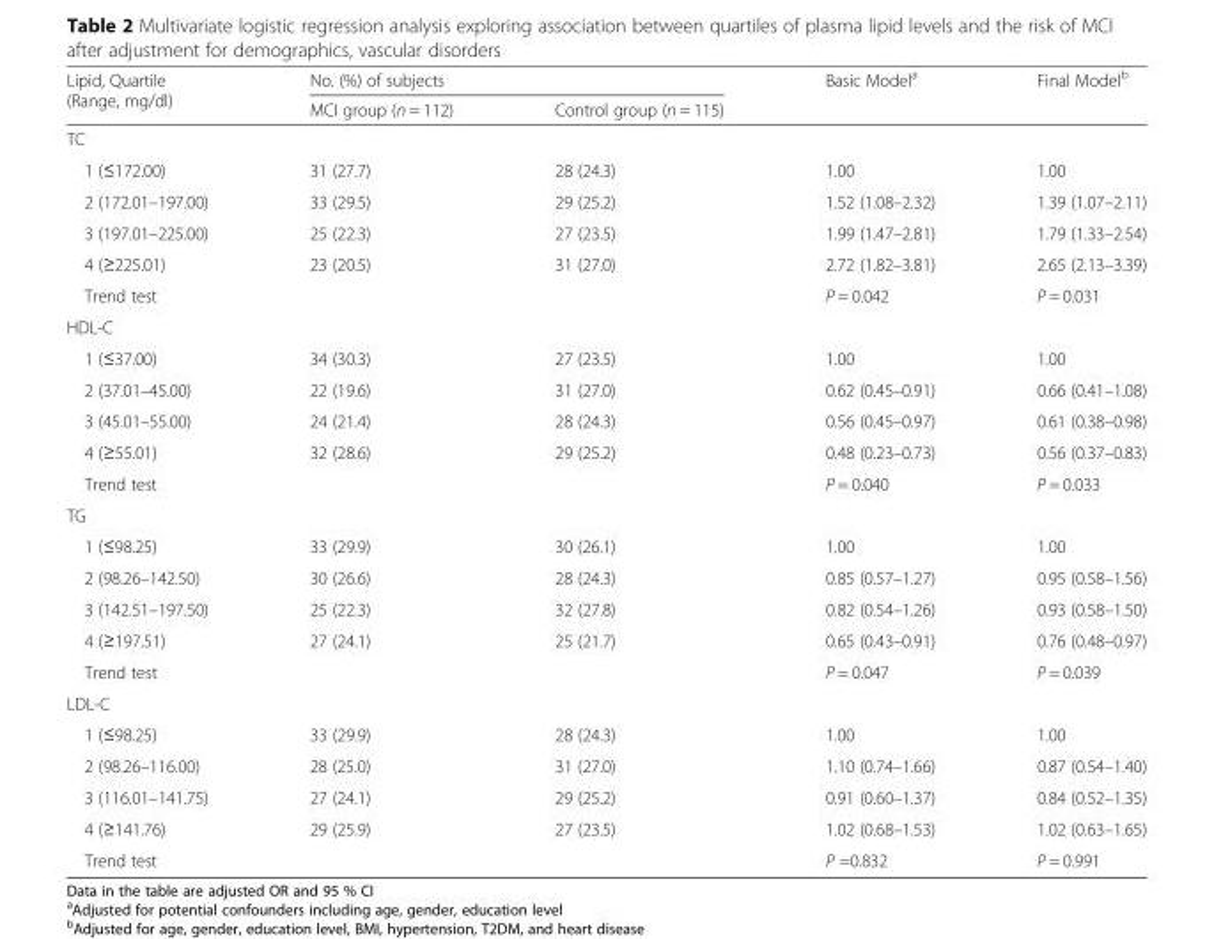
<table><thead><tr><td rowspan="2">Lipid, Quartile (Range, mg/dl)</td><td colspan="2">No. (%) of subjects</td><td rowspan="2">Basic Model<sup>a</sup></td><td rowspan="2">Final Model<sup>b</sup></td></tr><tr><td>MCI group (n = 112)</td><td>Control group (n = 115)</td></tr></thead><tbody><tr><td colspan="5">TC</td></tr><tr><td>1 (≤172.00)</td><td>31 (27.7)</td><td>28 (24.3)</td><td>1.00</td><td>1.00</td></tr><tr><td>2 (172.01–197.00)</td><td>33 (29.5)</td><td>29 (25.2)</td><td>1.52 (1.08–2.32)</td><td>1.39 (1.07–2.11)</td></tr><tr><td>3 (197.01–225.00)</td><td>25 (22.3)</td><td>27 (23.5)</td><td>1.99 (1.47–2.81)</td><td>1.79 (1.33–2.54)</td></tr><tr><td>4 (≥225.01)</td><td>23 (20.5)</td><td>31 (27.0)</td><td>2.72 (1.82–3.81)</td><td>2.65 (2.13–3.39)</td></tr><tr><td>Trend test</td><td></td><td></td><td>P = 0.042</td><td>P = 0.031</td></tr><tr><td colspan="5">HDL-C</td></tr><tr><td>1 (≤37.00)</td><td>34 (30.3)</td><td>27 (23.5)</td><td>1.00</td><td>1.00</td></tr><tr><td>2 (37.01–45.00)</td><td>22 (19.6)</td><td>31 (27.0)</td><td>0.62 (0.45–0.91)</td><td>0.66 (0.41–1.08)</td></tr><tr><td>3 (45.01–55.00)</td><td>24 (21.4)</td><td>28 (24.3)</td><td>0.56 (0.45–0.97)</td><td>0.61 (0.38–0.98)</td></tr><tr><td>4 (≥55.01)</td><td>32 (28.6)</td><td>29 (25.2)</td><td>0.48 (0.23–0.73)</td><td>0.56 (0.37–0.83)</td></tr><tr><td>Trend test</td><td></td><td></td><td>P = 0.040</td><td>P = 0.033</td></tr><tr><td colspan="5">TG</td></tr><tr><td>1 (≤98.25)</td><td>33 (29.9)</td><td>30 (26.1)</td><td>1.00</td><td>1.00</td></tr><tr><td>2 (98.26–142.50)</td><td>30 (26.6)</td><td>28 (24.3)</td><td>0.85 (0.57–1.27)</td><td>0.95 (0.58–1.56)</td></tr><tr><td>3 (142.51–197.50)</td><td>25 (22.3)</td><td>32 (27.8)</td><td>0.82 (0.54–1.26)</td><td>0.93 (0.58–1.50)</td></tr><tr><td>4 (≥197.51)</td><td>27 (24.1)</td><td>25 (21.7)</td><td>0.65 (0.43–0.91)</td><td>0.76 (0.48–0.97)</td></tr><tr><td>Trend test</td><td></td><td></td><td>P = 0.047</td><td>P = 0.039</td></tr><tr><td colspan="5">LDL-C</td></tr><tr><td>1 (≤98.25)</td><td>33 (29.9)</td><td>28 (24.3)</td><td>1.00</td><td>1.00</td></tr><tr><td>2 (98.26–116.00)</td><td>28 (25.0)</td><td>31 (27.0)</td><td>1.10 (0.74–1.66)</td><td>0.87 (0.54–1.40)</td></tr><tr><td>3 (116.01–141.75)</td><td>27 (24.1)</td><td>29 (25.2)</td><td>0.91 (0.60–1.37)</td><td>0.84 (0.52–1.35)</td></tr><tr><td>4 (≥141.76)</td><td>29 (25.9)</td><td>27 (23.5)</td><td>1.02 (0.68–1.53)</td><td>1.02 (0.63–1.65)</td></tr><tr><td>Trend test</td><td></td><td></td><td>P =0.832</td><td>P = 0.991</td></tr></tbody></table>